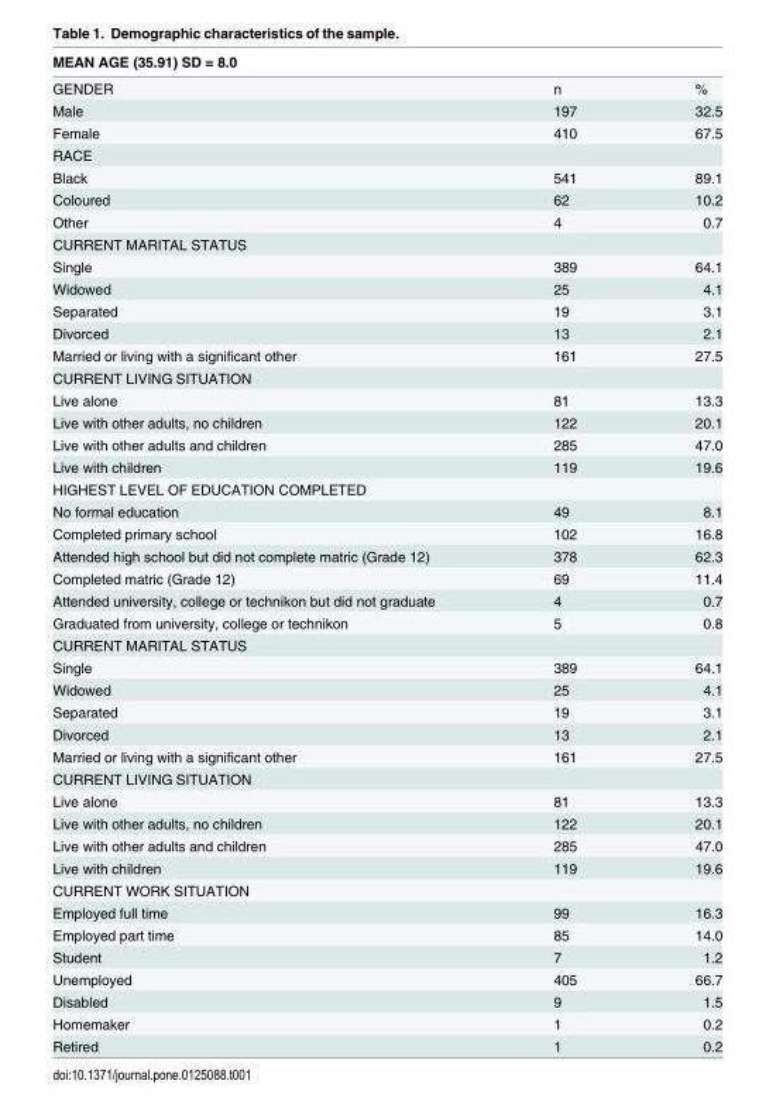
<table><thead><tr><td>MEAN AGE (35.91) SD = 8.0</td><td></td><td></td></tr></thead><tbody><tr><td>GENDER</td><td>n</td><td>%</td></tr><tr><td>Male</td><td>197</td><td>32.5</td></tr><tr><td>Female</td><td>410</td><td>67.5</td></tr><tr><td colspan="3">RACE</td></tr><tr><td>Black</td><td>541</td><td>89.1</td></tr><tr><td>Coloured</td><td>62</td><td>10.2</td></tr><tr><td>Other</td><td>4</td><td>0.7</td></tr><tr><td colspan="3">CURRENT MARITAL STATUS</td></tr><tr><td>Single</td><td>389</td><td>64.1</td></tr><tr><td>Widowed</td><td>25</td><td>4.1</td></tr><tr><td>Separated</td><td>19</td><td>3.1</td></tr><tr><td>Divorced</td><td>13</td><td>2.1</td></tr><tr><td>Married or living with a significant other</td><td>161</td><td>27.5</td></tr><tr><td colspan="3">CURRENT LIVING SITUATION</td></tr><tr><td>Live alone</td><td>81</td><td>13.3</td></tr><tr><td>Live with other adults, no children</td><td>122</td><td>20.1</td></tr><tr><td>Live with other adults and children</td><td>285</td><td>47.0</td></tr><tr><td>Live with children</td><td>119</td><td>19.6</td></tr><tr><td colspan="3">HIGHEST LEVEL OF EDUCATION COMPLETED</td></tr><tr><td>No formal education</td><td>49</td><td>8.1</td></tr><tr><td>Completed primary school</td><td>102</td><td>16.8</td></tr><tr><td>Attended high school but did not complete matric (Grade 12)</td><td>378</td><td>62.3</td></tr><tr><td>Completed matric (Grade 12)</td><td>69</td><td>11.4</td></tr><tr><td>Attended university, college or technikon but did not graduate</td><td>4</td><td>0.7</td></tr><tr><td>Graduated from university, college or technikon</td><td>5</td><td>0.8</td></tr><tr><td colspan="3">CURRENT MARITAL STATUS</td></tr><tr><td>Single</td><td>389</td><td>64.1</td></tr><tr><td>Widowed</td><td>25</td><td>4.1</td></tr><tr><td>Separated</td><td>19</td><td>3.1</td></tr><tr><td>Divorced</td><td>13</td><td>2.1</td></tr><tr><td>Married or living with a significant other</td><td>161</td><td>27.5</td></tr><tr><td colspan="3">CURRENT LIVING SITUATION</td></tr><tr><td>Live alone</td><td>81</td><td>13.3</td></tr><tr><td>Live with other adults, no children</td><td>122</td><td>20.1</td></tr><tr><td>Live with other adults and children</td><td>285</td><td>47.0</td></tr><tr><td>Live with children</td><td>119</td><td>19.6</td></tr><tr><td colspan="3">CURRENT WORK SITUATION</td></tr><tr><td>Employed full time</td><td>99</td><td>16.3</td></tr><tr><td>Employed part time</td><td>85</td><td>14.0</td></tr><tr><td>Student</td><td>7</td><td>1.2</td></tr><tr><td>Unemployed</td><td>405</td><td>66.7</td></tr><tr><td>Disabled</td><td>9</td><td>1.5</td></tr><tr><td>Homemaker</td><td>1</td><td>0.2</td></tr><tr><td>Retired</td><td>1</td><td>0.2</td></tr></tbody></table>